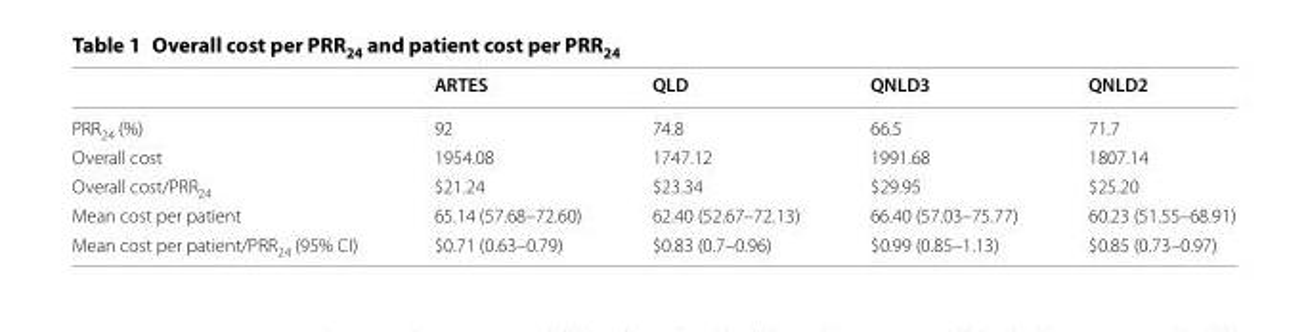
<table><thead><tr><td></td><td>ARTES</td><td>QLD</td><td>QNLD3</td><td>QNLD2</td></tr></thead><tbody><tr><td>PRR<sub>24</sub> (%)</td><td>92</td><td>74.8</td><td>66.5</td><td>71.7</td></tr><tr><td>Overall cost</td><td>1954.08</td><td>1747.12</td><td>1991.68</td><td>1807.14</td></tr><tr><td>Overall cost/PRR<sub>24</sub></td><td>$21.24</td><td>$23.34</td><td>$29.95</td><td>$25.20</td></tr><tr><td>Mean cost per patient</td><td>65.14 (57.68–72.60)</td><td>62.40 (52.67–72.13)</td><td>66.40 (57.03–75.77)</td><td>60.23 (51.55–68.91)</td></tr><tr><td>Mean cost per patient/PRR<sub>24</sub> (95% CI)</td><td>$0.71 (0.63–0.79)</td><td>$0.83 (0.7–0.96)</td><td>$0.99 (0.85–1.13)</td><td>$0.85 (0.73–0.97)</td></tr></tbody></table>